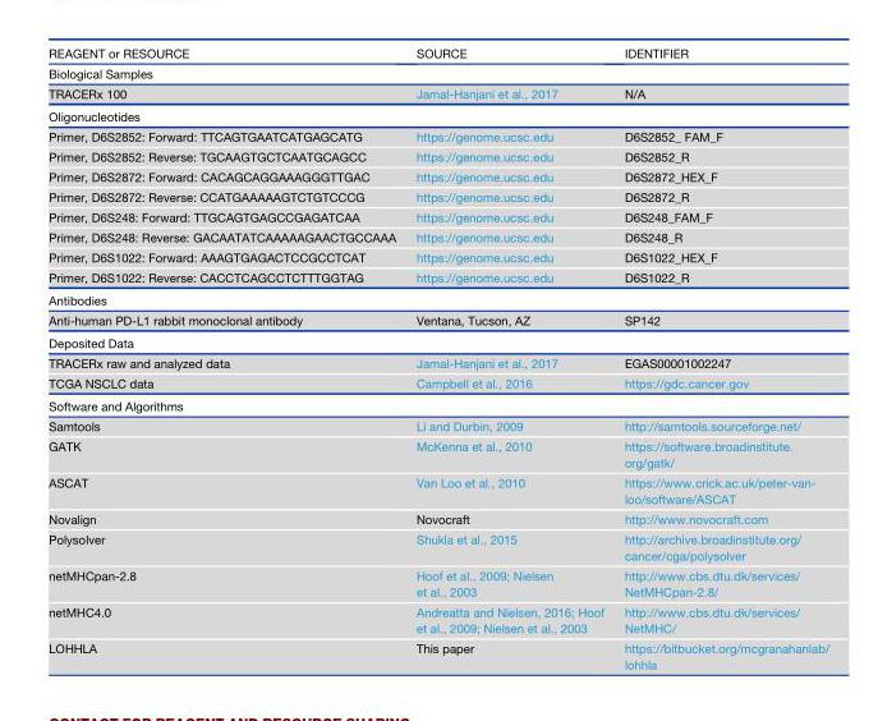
<table><thead><tr><td>REAGENT or RESOURCE</td><td>SOURCE</td><td>IDENTIFIER</td></tr></thead><tbody><tr><td colspan="3">Biological Samples</td></tr><tr><td>TRACERx 100</td><td>Jamal-Hanjani et al., 2017</td><td>N/A</td></tr><tr><td colspan="3">Oligonucleotides</td></tr><tr><td>Primer, D6S2852: Forward: TTCAGTGAATCATGAGCATG</td><td>https://genome.ucsc.edu</td><td>D6S2852_ FAM_F</td></tr><tr><td>Primer, D6S2852: Reverse: TGCAAGTGCTCAATGCAGCC</td><td>https://genome.ucsc.edu</td><td>D6S2852_R</td></tr><tr><td>Primer, D6S2872: Forward: CACAGCAGGAAAGGGTTGAC</td><td>https://genome.ucsc.edu</td><td>D6S2872_HEX_F</td></tr><tr><td>Primer, D6S2872: Reverse: CCATGAAAAAGTCTGTCCCG</td><td>https://genome.ucsc.edu</td><td>D6S2872_R</td></tr><tr><td>Primer, D6S248: Forward: TTGCAGTGAGCCGAGATCAA</td><td>https://genome.ucsc.edu</td><td>D6S248_FAM_F</td></tr><tr><td>Primer, D6S248: Reverse: GACAATATCAAAAAGAACTGCCAAA</td><td>https://genome.ucsc.edu</td><td>D6S248_R</td></tr><tr><td>Primer, D6S1022: Forward: AAAGTGAGACTCCGCCTCAT</td><td>https://genome.ucsc.edu</td><td>D6S1022_HEX_F</td></tr><tr><td>Primer, D6S1022: Reverse: CACCTCAGCCTCTTTGGTAG</td><td>https://genome.ucsc.edu</td><td>D6S1022_R</td></tr><tr><td colspan="3">Antibodies</td></tr><tr><td>Anti-human PD-L1 rabbit monoclonal antibody</td><td>Ventana, Tucson, AZ</td><td>SP142</td></tr><tr><td colspan="3">Deposited Data</td></tr><tr><td>TRACERx raw and analyzed data</td><td>Jamal-Hanjani et al., 2017</td><td>EGAS00001002247</td></tr><tr><td>TCGA NSCLC data</td><td>Campbell et al., 2016</td><td>https://gdc.cancer.gov</td></tr><tr><td colspan="3">Software and Algorithms</td></tr><tr><td>Samtools</td><td>Li and Durbin, 2009</td><td>http://samtools.sourceforge.net/</td></tr><tr><td>GATK</td><td>McKenna et al., 2010</td><td>https://software.broadinstitute. org/gatk/</td></tr><tr><td>ASCAT</td><td>Van Loo et al., 2010</td><td>https://www.crick.ac.uk/peter-van- loo/software/ASCAT</td></tr><tr><td>Novalign</td><td>Novocraft</td><td>http://www.novocraft.com</td></tr><tr><td>Polysolver</td><td>Shukla et al., 2015</td><td>http://archive.broadinstitute.org/ cancer/cga/polysolver</td></tr><tr><td>netMHCpan-2.8</td><td>Hoof et al., 2009; Nielsen et al., 2003</td><td>http://www.cbs.dtu.dk/services/ NetMHCpan-2.8/</td></tr><tr><td>netMHC4.0</td><td>Andreatta and Nielsen, 2016; Hoof et al., 2009; Nielsen et al., 2003</td><td>http://www.cbs.dtu.dk/services/ NetMHC/</td></tr><tr><td>LOHHLA</td><td>This paper</td><td>https://bitbucket.org/mcgranahanlab/ lohhla</td></tr></tbody></table>